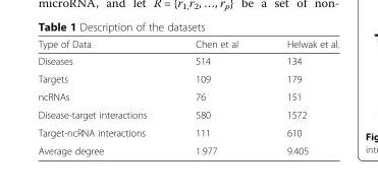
<table><thead><tr><td>Type of Data</td><td>Chen et al</td><td>Helwak et al.</td></tr></thead><tbody><tr><td>Diseases</td><td>514</td><td>134</td></tr><tr><td>Targets</td><td>109</td><td>179</td></tr><tr><td>ncRNAs</td><td>76</td><td>151</td></tr><tr><td>Disease-target interactions</td><td>580</td><td>1572</td></tr><tr><td>Target-ncRNA interactions</td><td>111</td><td>610</td></tr><tr><td>Average degree</td><td>1.977</td><td>9.405</td></tr></tbody></table>